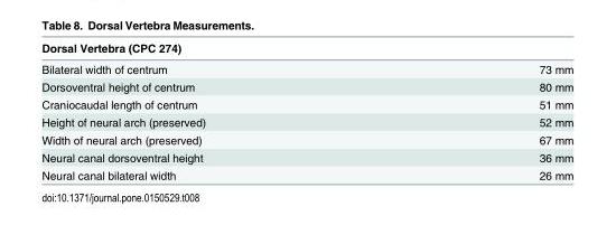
<table><thead><tr><td>Dorsal Vertebra (CPC 274)</td><td></td></tr></thead><tbody><tr><td>Bilateral width of centrum</td><td>73 mm</td></tr><tr><td>Dorsoventral height of centrum</td><td>80 mm</td></tr><tr><td>Craniocaudal length of centrum</td><td>51 mm</td></tr><tr><td>Height of neural arch (preserved)</td><td>52 mm</td></tr><tr><td>Width of neural arch (preserved)</td><td>67 mm</td></tr><tr><td>Neural canal dorsoventral height</td><td>36 mm</td></tr><tr><td>Neural canal bilateral width</td><td>26 mm</td></tr></tbody></table>